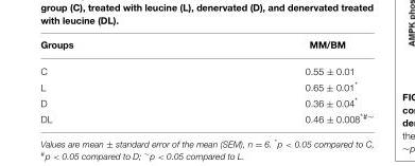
<table><thead><tr><td>Groups</td><td>MM/BM</td></tr></thead><tbody><tr><td>C</td><td>0.55 ± 0.01</td></tr><tr><td>L</td><td>0.65 ± 0.01*</td></tr><tr><td>D</td><td>0.36 ± 0.04*</td></tr><tr><td>DL</td><td>0.46 ± 0.008*#∼</td></tr></tbody></table>